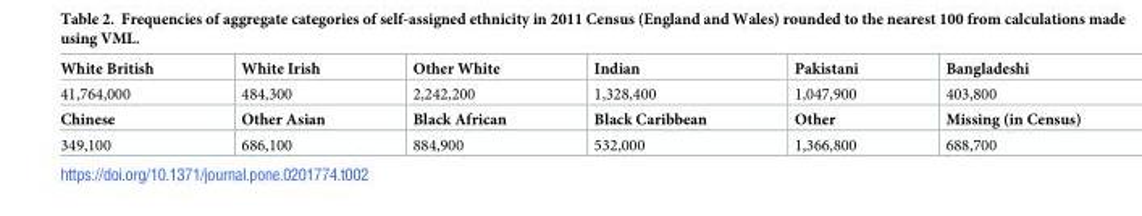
<table><tbody><tr><td>White British</td><td>White Irish</td><td>Other White</td><td>Indian</td><td>Pakistani</td><td>Bangladeshi</td></tr><tr><td>41,764,000</td><td>484,300</td><td>2,242,200</td><td>1,328,400</td><td>1,047,900</td><td>403,800</td></tr><tr><td>Chinese</td><td>Other Asian</td><td>Black African</td><td>Black Caribbean</td><td>Other</td><td>Missing (in Census)</td></tr><tr><td>349,100</td><td>686,100</td><td>884,900</td><td>532,000</td><td>1,366,800</td><td>688,700</td></tr></tbody></table>